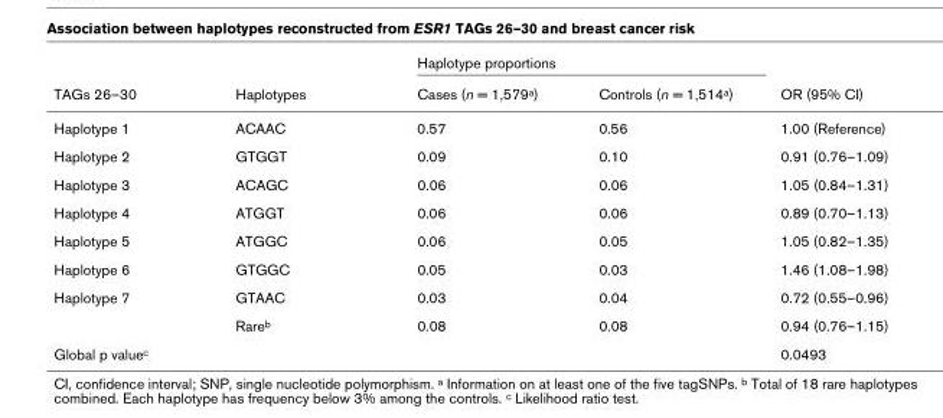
<table><thead><tr><td rowspan="2">TAGs 26–30</td><td rowspan="2">Haplotypes</td><td colspan="2">Haplotype proportions</td><td rowspan="2">OR (95% CI)</td></tr><tr><td>Cases (n = 1,579<sup>a</sup>)</td><td>Controls (n = 1,514<sup>a</sup>)</td></tr></thead><tbody><tr><td>Haplotype 1</td><td>ACAAC</td><td>0.57</td><td>0.56</td><td>1.00 (Reference)</td></tr><tr><td>Haplotype 2</td><td>GTGGT</td><td>0.09</td><td>0.10</td><td>0.91 (0.76–1.09)</td></tr><tr><td>Haplotype 3</td><td>ACAGC</td><td>0.06</td><td>0.06</td><td>1.05 (0.84–1.31)</td></tr><tr><td>Haplotype 4</td><td>ATGGT</td><td>0.06</td><td>0.06</td><td>0.89 (0.70–1.13)</td></tr><tr><td>Haplotype 5</td><td>ATGGC</td><td>0.06</td><td>0.05</td><td>1.05 (0.82–1.35)</td></tr><tr><td>Haplotype 6</td><td>GTGGC</td><td>0.05</td><td>0.03</td><td>1.46 (1.08–1.98)</td></tr><tr><td rowspan="2">Haplotype 7</td><td>GTAAC</td><td>0.03</td><td>0.04</td><td>0.72 (0.55–0.96)</td></tr><tr><td>Rare<sup>b</sup></td><td>0.08</td><td>0.08</td><td>0.94 (0.76–1.15)</td></tr><tr><td>Global p value<sup>c</sup></td><td></td><td></td><td></td><td>0.0493</td></tr></tbody></table>